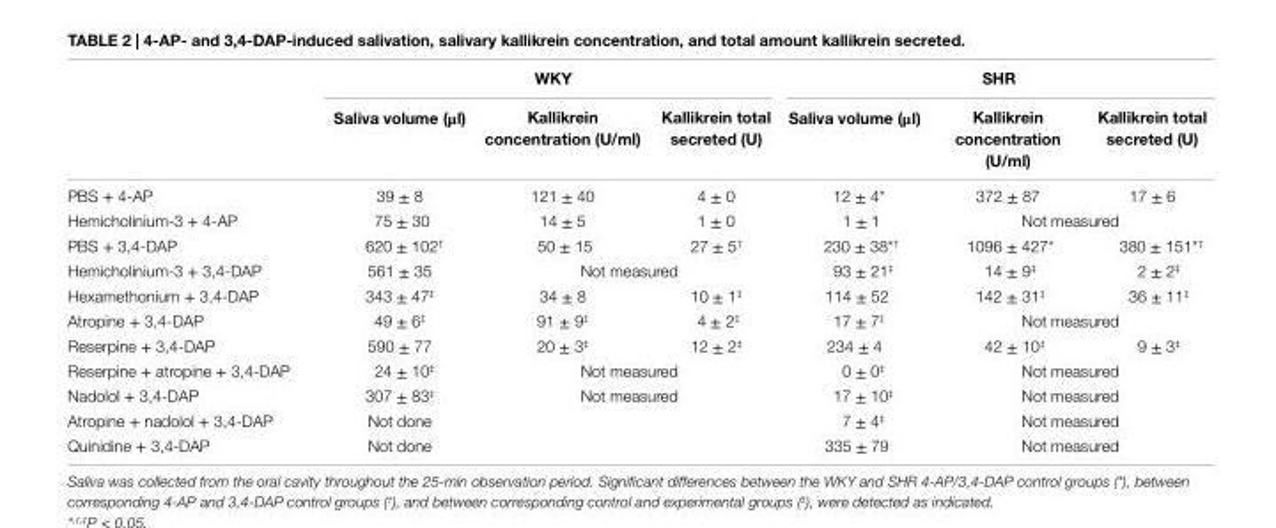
<table><thead><tr><td rowspan="2"></td><td colspan="3">WKY</td><td colspan="3">shr</td></tr><tr><td>saliva volume (μl)</td><td>Kallikrein concentration (U/ml)</td><td>Kallikrein total secreted (U)</td><td>saliva volume (μl)</td><td>Kallikrein concentration (U/ml)</td><td>Kallikrein total secreted (U)</td></tr></thead><tbody><tr><td>PBS + 4-AP</td><td>39 ± 8</td><td>121 ± 40</td><td>4 ± 0</td><td>12 ± 4*</td><td>372 ± 87</td><td>17 ± 6</td></tr><tr><td>Hemicholinium-3 + 4-AP</td><td>75 ± 30</td><td>14 ± 5</td><td>1 ± 0</td><td>1 ± 1</td><td colspan="2">Not measured</td></tr><tr><td>PBS + 3,4-DAP</td><td>620 ± 102<sup>†</sup></td><td>50 ± 15</td><td>27 ± 5<sup>†</sup></td><td>230 ± 38*<sup>†</sup></td><td>1096 ± 427*</td><td>380 ± 151*<sup>†</sup></td></tr><tr><td>Hemicholinium-3 + 3,4-DAP</td><td>561 ± 35</td><td colspan="2">Not measured</td><td>93 ± 21<sup>‡</sup></td><td>14 ± 9<sup>‡</sup></td><td>2 ± 2<sup>‡</sup></td></tr><tr><td>Hexamethonium + 3,4-DAP</td><td>343 ± 47<sup>‡</sup></td><td>34 ± 8</td><td>10 ± 1<sup>‡</sup></td><td>114 ± 52</td><td>142 ± 31<sup>‡</sup></td><td>36 ± 11<sup>‡</sup></td></tr><tr><td>Atropine + 3,4-DAP</td><td>49 ± 6<sup>‡</sup></td><td>91 ± 9<sup>‡</sup></td><td>4 ± 2<sup>‡</sup></td><td>17 ± 7<sup>‡</sup></td><td colspan="2">Not measured</td></tr><tr><td>Reserpine + 3,4-DAP</td><td>590 ± 77</td><td>20 ± 3<sup>‡</sup></td><td>12 ± 2<sup>‡</sup></td><td>234 ± 4</td><td>42 ± 10<sup>‡</sup></td><td>9 ± 3<sup>‡</sup></td></tr><tr><td>Reserpine + atropine + 3,4-DAP</td><td>24 ± 10<sup>‡</sup></td><td colspan="2">Not measured</td><td>0 ± 0<sup>‡</sup></td><td colspan="2">Not measured</td></tr><tr><td>Nadolol + 3,4-DAP</td><td>307 ± 83<sup>‡</sup></td><td colspan="2">Not measured</td><td>17 ± 10<sup>‡</sup></td><td colspan="2">Not measured</td></tr><tr><td>Atropine + nadolol + 3,4-DAP</td><td>Not done</td><td></td><td></td><td>7 ± 4<sup>‡</sup></td><td colspan="2">Not measured</td></tr><tr><td>Quinidine + 3,4-DAP</td><td>Not done</td><td></td><td></td><td>335 ± 79</td><td colspan="2">Not measured</td></tr></tbody></table>